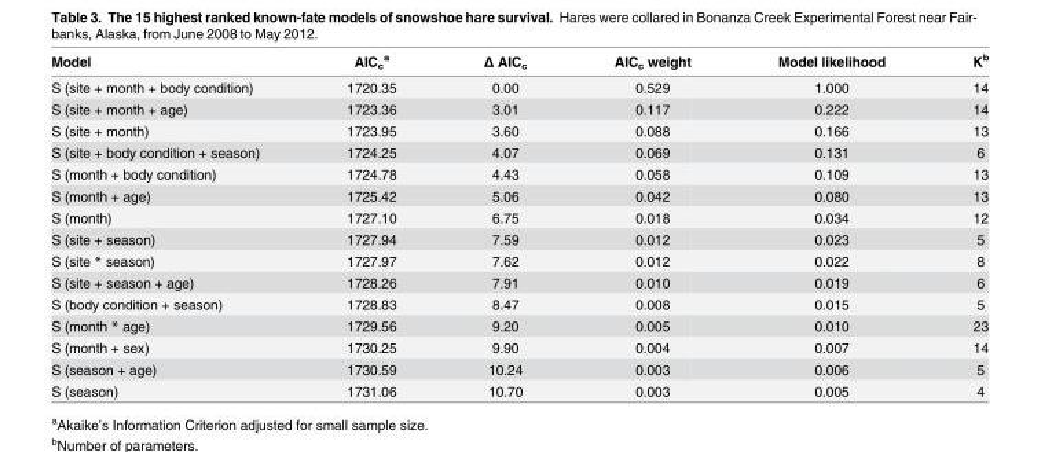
<table><thead><tr><td>Model</td><td>AIC<sub>c</sub> <sup>a</sup></td><td>Δ AIC<sub>c</sub></td><td>AIC<sub>c</sub> weight</td><td>Model likelihood</td><td>K<sup>b</sup></td></tr></thead><tbody><tr><td>S (site + month + body condition)</td><td>1720.35</td><td>0.00</td><td>0.529</td><td>1.000</td><td>14</td></tr><tr><td>S (site + month + age)</td><td>1723.36</td><td>3.01</td><td>0.117</td><td>0.222</td><td>14</td></tr><tr><td>S (site + month)</td><td>1723.95</td><td>3.60</td><td>0.088</td><td>0.166</td><td>13</td></tr><tr><td>S (site + body condition + season)</td><td>1724.25</td><td>4.07</td><td>0.069</td><td>0.131</td><td>6</td></tr><tr><td>S (month + body condition)</td><td>1724.78</td><td>4.43</td><td>0.058</td><td>0.109</td><td>13</td></tr><tr><td>S (month + age)</td><td>1725.42</td><td>5.06</td><td>0.042</td><td>0.080</td><td>13</td></tr><tr><td>S (month)</td><td>1727.10</td><td>6.75</td><td>0.018</td><td>0.034</td><td>12</td></tr><tr><td>S (site + season)</td><td>1727.94</td><td>7.59</td><td>0.012</td><td>0.023</td><td>5</td></tr><tr><td>S (site * season)</td><td>1727.97</td><td>7.62</td><td>0.012</td><td>0.022</td><td>8</td></tr><tr><td>S (site + season + age)</td><td>1728.26</td><td>7.91</td><td>0.010</td><td>0.019</td><td>6</td></tr><tr><td>S (body condition + season)</td><td>1728.83</td><td>8.47</td><td>0.008</td><td>0.015</td><td>5</td></tr><tr><td>S (month * age)</td><td>1729.56</td><td>9.20</td><td>0.005</td><td>0.010</td><td>23</td></tr><tr><td>S (month + sex)</td><td>1730.25</td><td>9.90</td><td>0.004</td><td>0.007</td><td>14</td></tr><tr><td>S (season + age)</td><td>1730.59</td><td>10.24</td><td>0.003</td><td>0.006</td><td>5</td></tr><tr><td>S (season)</td><td>1731.06</td><td>10.70</td><td>0.003</td><td>0.005</td><td>4</td></tr></tbody></table>